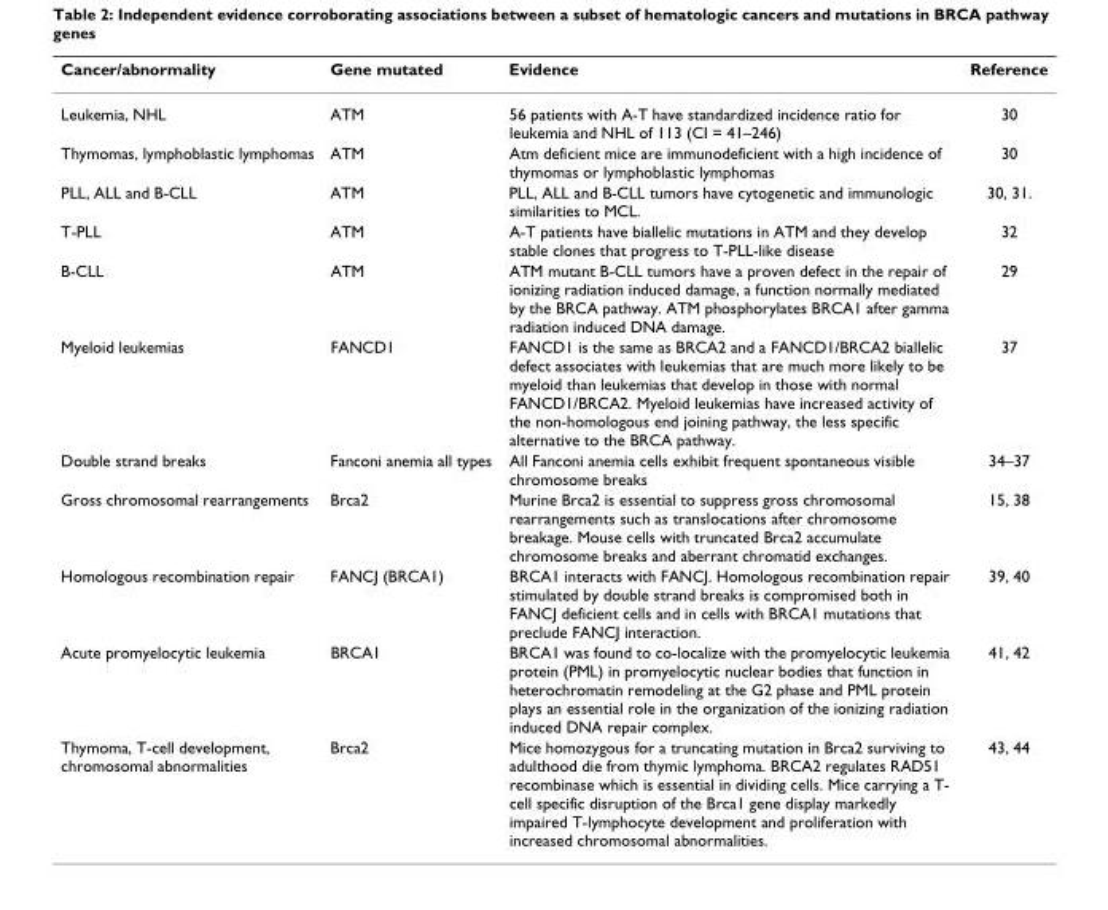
<table><thead><tr><td>Cancer/abnormality</td><td>Gene mutated</td><td>Evidence</td><td>Reference</td></tr></thead><tbody><tr><td>Leukemia, NHL</td><td>ATM</td><td>56 patients with A-T have standardized incidence ratio for leukemia and NHL of 113 (CI = 41–246)</td><td>30</td></tr><tr><td>Thymomas, lymphoblastic lymphomas</td><td>ATM</td><td>Atm deficient mice are immunodeficient with a high incidence of thymomas or lymphoblastic lymphomas</td><td>30</td></tr><tr><td>PLL, ALL and B-CLL</td><td>ATM</td><td>PLL, ALL and B-CLL tumors have cytogenetic and immunologic similarities to MCL.</td><td>30, 31.</td></tr><tr><td>T-PLL</td><td>ATM</td><td>A-T patients have biallelic mutations in ATM and they develop stable clones that progress to T-PLL-like disease</td><td>32</td></tr><tr><td>B-CLL</td><td>ATM</td><td>ATM mutant B-CLL tumors have a proven defect in the repair of ionizing radiation induced damage, a function normally mediated by the BRCA pathway. ATM phosphorylates BRCA1 after gamma radiation induced DNA damage.</td><td>29</td></tr><tr><td>Myeloid leukemias</td><td>FANCD1</td><td>FANCD1 is the same as BRCA2 and a FANCD1/BRCA2 biallelic defect associates with leukemias that are much more likely to be myeloid than leukemias that develop in those with normal FANCD1/BRCA2. Myeloid leukemias have increased activity of the non-homologous end joining pathway, the less specific alternative to the BRCA pathway.</td><td>37</td></tr><tr><td>Double strand breaks</td><td>Fanconi anemia all types</td><td>All Fanconi anemia cells exhibit frequent spontaneous visible chromosome breaks</td><td>34–37</td></tr><tr><td>Gross chromosomal rearrangements</td><td>Brca2</td><td>Murine Brca2 is essential to suppress gross chromosomal rearrangements such as translocations after chromosome breakage. Mouse cells with truncated Brca2 accumulate chromosome breaks and aberrant chromatid exchanges.</td><td>15, 38</td></tr><tr><td>Homologous recombination repair</td><td>FANCJ (BRCA1)</td><td>BRCA1 interacts with FANCJ. Homologous recombination repair stimulated by double strand breaks is compromised both in FANCJ deficient cells and in cells with BRCA1 mutations that preclude FANCJ interaction.</td><td>39, 40</td></tr><tr><td>Acute promyelocytic leukemia</td><td>BRCA1</td><td>BRCA1 was found to co-localize with the promyelocytic leukemia protein (PML) in promyelocytic nuclear bodies that function in heterochromatin remodeling at the G2 phase and PML protein plays an essential role in the organization of the ionizing radiation induced DNA repair complex.</td><td>41, 42</td></tr><tr><td>Thymoma, T-cell development, chromosomal abnormalities</td><td>Brca2</td><td>Mice homozygous for a truncating mutation in Brca2 surviving to adulthood die from thymic lymphoma. BRCA2 regulates RAD51 recombinase which is essential in dividing cells. Mice carrying a T- cell specific disruption of the Brca1 gene display markedly impaired T-lymphocyte development and proliferation with increased chromosomal abnormalities.</td><td>43, 44</td></tr></tbody></table>